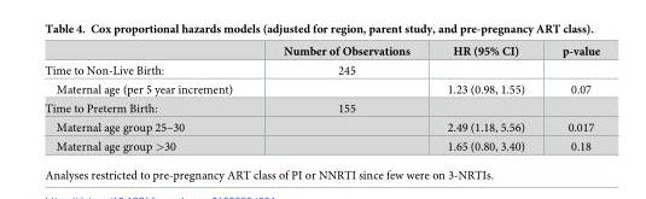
<table><thead><tr><td></td><td>Number of Observations</td><td>HR (95% CI)</td><td>p-value</td></tr></thead><tbody><tr><td>Time to Non-Live Birth:</td><td>245</td><td></td><td></td></tr><tr><td>Maternal age (per 5 year increment)</td><td></td><td>1.23 (0.98, 1.55)</td><td>0.07</td></tr><tr><td>Time to Preterm Birth:</td><td>155</td><td></td><td></td></tr><tr><td>Maternal age group 25–30</td><td></td><td>2.49 (1.18, 5.56)</td><td>0.017</td></tr><tr><td>Maternal age group &gt;30</td><td></td><td>1.65 (0.80, 3.40)</td><td>0.18</td></tr></tbody></table>